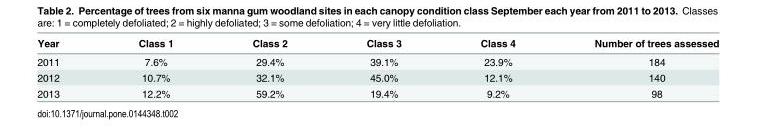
<table><thead><tr><td>Year</td><td>Class 1</td><td>Class 2</td><td>Class 3</td><td>Class 4</td><td>Number of trees assessed</td></tr></thead><tbody><tr><td>2011</td><td>7.6%</td><td>29.4%</td><td>39.1%</td><td>23.9%</td><td>184</td></tr><tr><td>2012</td><td>10.7%</td><td>32.1%</td><td>45.0%</td><td>12.1%</td><td>140</td></tr><tr><td>2013</td><td>12.2%</td><td>59.2%</td><td>19.4%</td><td>9.2%</td><td>98</td></tr></tbody></table>